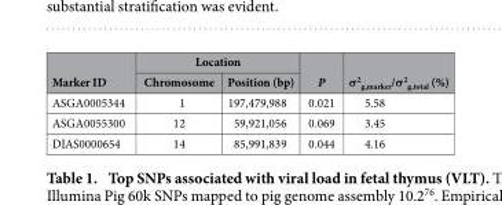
<table><thead><tr><td rowspan="2">Marker ID</td><td colspan="2">Location</td><td rowspan="2">P</td><td rowspan="2">σ<sup>2</sup> <sub>g,marker</sub>/σ<sup>2</sup> <sub>g,total</sub> (%)</td></tr><tr><td>Chromosome</td><td>Position (bp)</td></tr></thead><tbody><tr><td>ASGA0005344</td><td>1</td><td>197,479,988</td><td>0.021</td><td>5.58</td></tr><tr><td>ASGA0055300</td><td>12</td><td>59,921,056</td><td>0.069</td><td>3.45</td></tr><tr><td>DIAS0000654</td><td>14</td><td>85,991,839</td><td>0.044</td><td>4.16</td></tr></tbody></table>